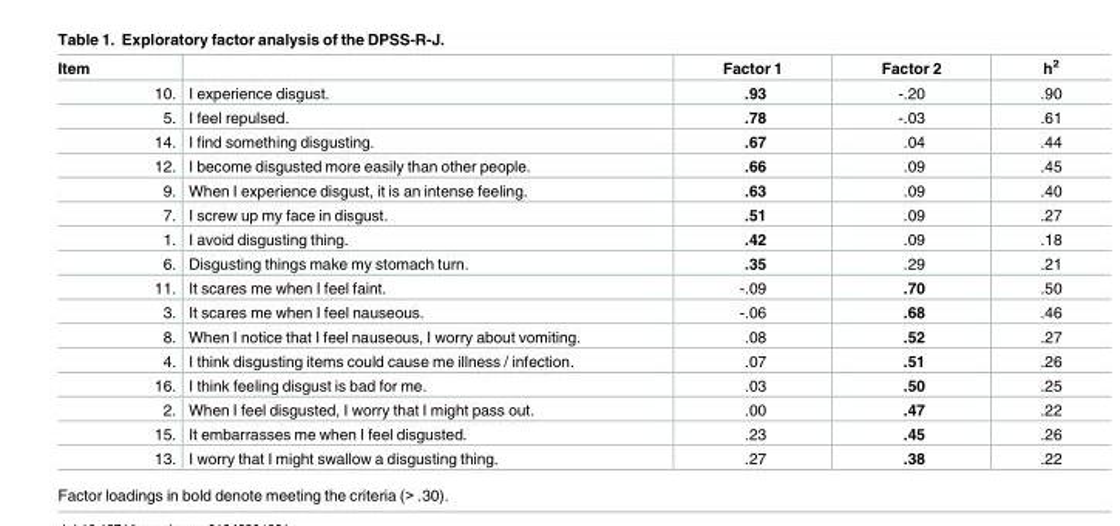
<table><thead><tr><td>Item</td><td></td><td>Factor 1</td><td>Factor 2</td><td>h<sup>2</sup></td></tr></thead><tbody><tr><td>10.</td><td>I experience disgust.</td><td>.93</td><td>-.20</td><td>.90</td></tr><tr><td>5.</td><td>I feel repulsed.</td><td>.78</td><td>-.03</td><td>.61</td></tr><tr><td>14.</td><td>I find something disgusting.</td><td>.67</td><td>.04</td><td>.44</td></tr><tr><td>12.</td><td>I become disgusted more easily than other people.</td><td>.66</td><td>.09</td><td>.45</td></tr><tr><td>9.</td><td>When I experience disgust, it is an intense feeling.</td><td>.63</td><td>.09</td><td>.40</td></tr><tr><td>7.</td><td>I screw up my face in disgust.</td><td>.51</td><td>.09</td><td>.27</td></tr><tr><td>1.</td><td>I avoid disgusting thing.</td><td>.42</td><td>.09</td><td>.18</td></tr><tr><td>6.</td><td>Disgusting things make my stomach turn.</td><td>.35</td><td>.29</td><td>.21</td></tr><tr><td>11.</td><td>It scares me when I feel faint.</td><td>-.09</td><td>.70</td><td>.50</td></tr><tr><td>3.</td><td>It scares me when I feel nauseous.</td><td>-.06</td><td>.68</td><td>.46</td></tr><tr><td>8.</td><td>When I notice that I feel nauseous, I worry about vomiting.</td><td>.08</td><td>.52</td><td>.27</td></tr><tr><td>4.</td><td>I think disgusting items could cause me illness / infection.</td><td>.07</td><td>.51</td><td>.26</td></tr><tr><td>16.</td><td>I think feeling disgust is bad for me.</td><td>.03</td><td>.50</td><td>.25</td></tr><tr><td>2.</td><td>When I feel disgusted, I worry that I might pass out.</td><td>.00</td><td>.47</td><td>.22</td></tr><tr><td>15.</td><td>It embarrasses me when I feel disgusted.</td><td>.23</td><td>.45</td><td>.26</td></tr><tr><td>13.</td><td>I worry that I might swallow a disgusting thing.</td><td>.27</td><td>.38</td><td>.22</td></tr></tbody></table>